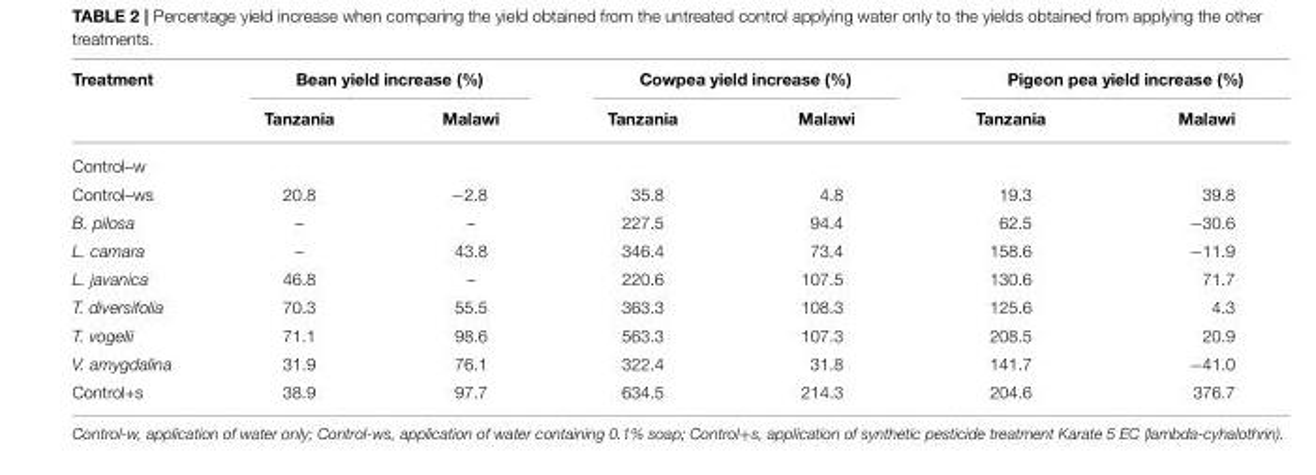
<table><thead><tr><td rowspan="2">Treatment</td><td colspan="2">Bean yield increase (%)</td><td colspan="2">Cowpea yield increase (%)</td><td colspan="2">Pigeon pea yield increase (%)</td></tr><tr><td>Tanzania</td><td>Malawi</td><td>Tanzania</td><td>Malawi</td><td>Tanzania</td><td>Malawi</td></tr></thead><tbody><tr><td colspan="7">Control–w</td></tr><tr><td>Control–ws</td><td>20.8</td><td>−2.8</td><td>35.8</td><td>4.8</td><td>19.3</td><td>39.8</td></tr><tr><td>B. pilosa</td><td>–</td><td>–</td><td>227.5</td><td>94.4</td><td>62.5</td><td>−30.6</td></tr><tr><td>L. camara</td><td>–</td><td>43.8</td><td>346.4</td><td>73.4</td><td>158.6</td><td>−11.9</td></tr><tr><td>L. javanica</td><td>46.8</td><td>–</td><td>220.6</td><td>107.5</td><td>130.6</td><td>71.7</td></tr><tr><td>T. diversifolia</td><td>70.3</td><td>55.5</td><td>363.3</td><td>108.3</td><td>125.6</td><td>4.3</td></tr><tr><td>T. vogelii</td><td>71.1</td><td>98.6</td><td>563.3</td><td>107.3</td><td>208.5</td><td>20.9</td></tr><tr><td>V. amygdalina</td><td>31.9</td><td>76.1</td><td>322.4</td><td>31.8</td><td>141.7</td><td>−41.0</td></tr><tr><td>Control+s</td><td>38.9</td><td>97.7</td><td>634.5</td><td>214.3</td><td>204.6</td><td>376.7</td></tr></tbody></table>